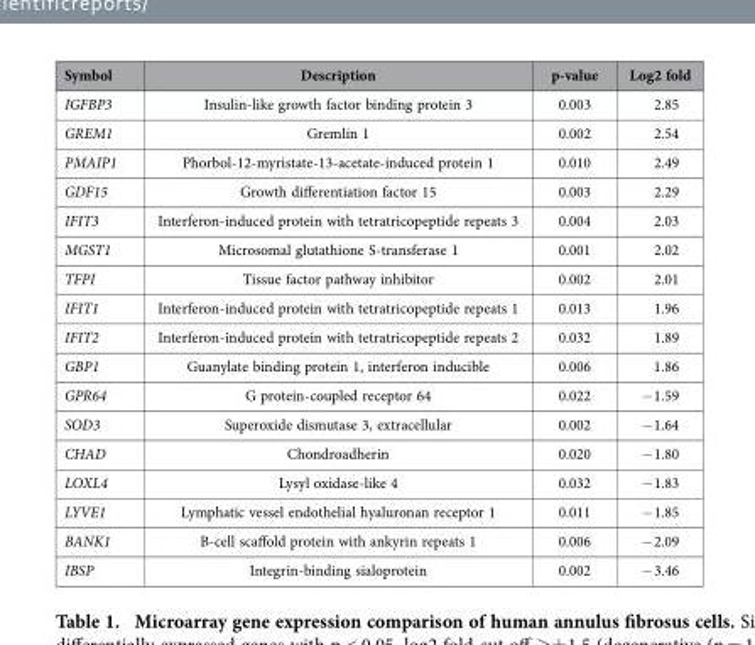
<table><thead><tr><td>Symbol</td><td>Description</td><td>p-value</td><td>Log2 fold</td></tr></thead><tbody><tr><td>IGFBP3</td><td>Insulin-like growth factor binding protein 3</td><td>0.003</td><td>2.85</td></tr><tr><td>GREM1</td><td>Gremlin 1</td><td>0.002</td><td>2.54</td></tr><tr><td>PMAIP1</td><td>Phorbol-12-myristate-13-acetate-induced protein 1</td><td>0.010</td><td>2.49</td></tr><tr><td>GDF15</td><td>Growth differentiation factor 15</td><td>0.003</td><td>2.29</td></tr><tr><td>IFIT3</td><td>Interferon-induced protein with tetratricopeptide repeats 3</td><td>0.004</td><td>2.03</td></tr><tr><td>MGST1</td><td>Microsomal glutathione S-transferase 1</td><td>0.001</td><td>2.02</td></tr><tr><td>TFPI</td><td>Tissue factor pathway inhibitor</td><td>0.002</td><td>2.01</td></tr><tr><td>IFIT1</td><td>Interferon-induced protein with tetratricopeptide repeats 1</td><td>0.013</td><td>1.96</td></tr><tr><td>IFIT2</td><td>Interferon-induced protein with tetratricopeptide repeats 2</td><td>0.032</td><td>1.89</td></tr><tr><td>GBP1</td><td>Guanylate binding protein 1, interferon inducible</td><td>0.006</td><td>1.86</td></tr><tr><td>GPR64</td><td>G protein-coupled receptor 64</td><td>0.022</td><td>− 1.59</td></tr><tr><td>SOD3</td><td>Superoxide dismutase 3, extracellular</td><td>0.002</td><td>− 1.64</td></tr><tr><td>CHAD</td><td>Chondroadherin</td><td>0.020</td><td>− 1.80</td></tr><tr><td>LOXL4</td><td>Lysyl oxidase-like 4</td><td>0.032</td><td>− 1.83</td></tr><tr><td>LYVE1</td><td>Lymphatic vessel endothelial hyaluronan receptor 1</td><td>0.011</td><td>− 1.85</td></tr><tr><td>BANK1</td><td>B-cell scaffold protein with ankyrin repeats 1</td><td>0.006</td><td>− 2.09</td></tr><tr><td>IBSP</td><td>Integrin-binding sialoprotein</td><td>0.002</td><td>− 3.46</td></tr></tbody></table>